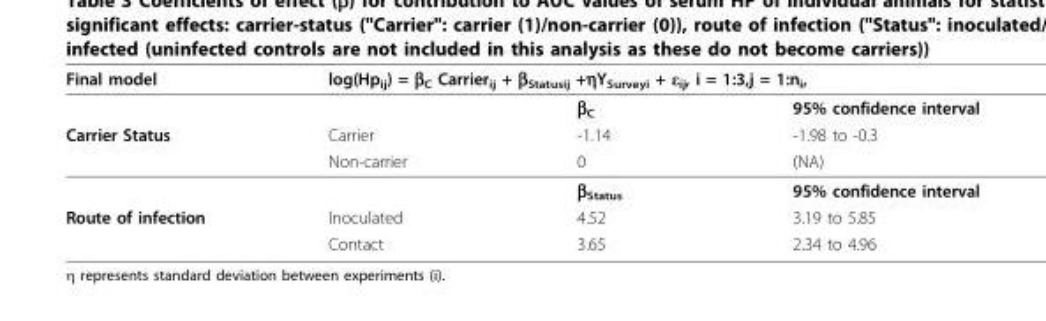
<table><thead><tr><td rowspan="2">Final model</td><td colspan="3">log(Hpij) = βC Carrierij + βStatusij +ηYSurveyi + εij, i = 1:3,j = 1:ni,</td></tr><tr><td></td><td>β<sub>C</sub></td><td>95% confidence interval</td></tr></thead><tbody><tr><td rowspan="3">Carrier Status</td><td>Carrier</td><td>-1.14</td><td>-1.98 to -0.3</td></tr><tr><td>Non-carrier</td><td>0</td><td>(NA)</td></tr><tr><td></td><td>β<sub>Status</sub></td><td>95% confidence interval</td></tr><tr><td rowspan="2">Route of infection</td><td>Inoculated</td><td>4.52</td><td>3.19 to 5.85</td></tr><tr><td>Contact</td><td>3.65</td><td>2.34 to 4.96</td></tr></tbody></table>